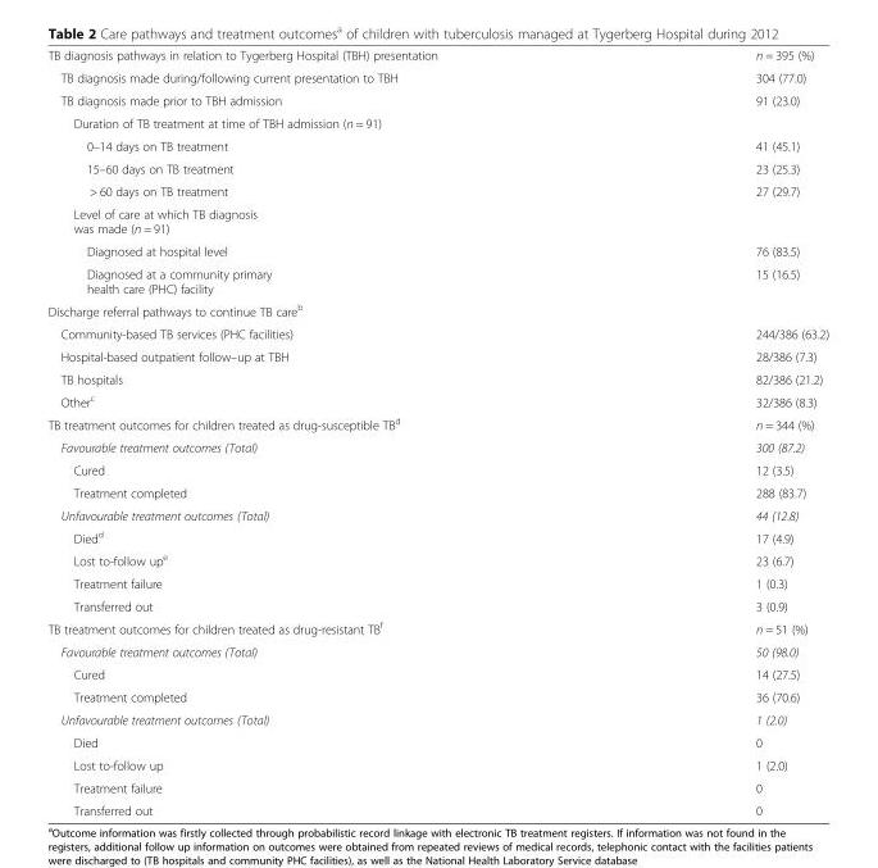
<table><tbody><tr><td>TB diagnosis pathways in relation to Tygerberg Hospital (TBH) presentation</td><td>n = 395 (%)</td></tr><tr><td>TB diagnosis made during/following current presentation to TBH</td><td>304 (77.0)</td></tr><tr><td>TB diagnosis made prior to TBH admission</td><td>91 (23.0)</td></tr><tr><td colspan="2">Duration of TB treatment at time of TBH admission (n = 91)</td></tr><tr><td>0–14 days on TB treatment</td><td>41 (45.1)</td></tr><tr><td>15–60 days on TB treatment</td><td>23 (25.3)</td></tr><tr><td>&gt; 60 days on TB treatment</td><td>27 (29.7)</td></tr><tr><td colspan="2">Level of care at which TB diagnosis was made (n = 91)</td></tr><tr><td>Diagnosed at hospital level</td><td>76 (83.5)</td></tr><tr><td>Diagnosed at a community primary health care (PHC) facility</td><td>15 (16.5)</td></tr><tr><td colspan="2">Discharge referral pathways to continue TB care<sup>b</sup></td></tr><tr><td>Community-based TB services (PHC facilities)</td><td>244/386 (63.2)</td></tr><tr><td>Hospital-based outpatient follow–up at TBH</td><td>28/386 (7.3)</td></tr><tr><td>TB hospitals</td><td>82/386 (21.2)</td></tr><tr><td>Other<sup>c</sup></td><td>32/386 (8.3)</td></tr><tr><td>TB treatment outcomes for children treated as drug-susceptible TB<sup>d</sup></td><td>n = 344 (%)</td></tr><tr><td>Favourable treatment outcomes (Total)</td><td>300 (87.2)</td></tr><tr><td>Cured</td><td>12 (3.5)</td></tr><tr><td>Treatment completed</td><td>288 (83.7)</td></tr><tr><td>Unfavourable treatment outcomes (Total)</td><td>44 (12.8)</td></tr><tr><td>Died<sup>d</sup></td><td>17 (4.9)</td></tr><tr><td>Lost to-follow up<sup>e</sup></td><td>23 (6.7)</td></tr><tr><td>Treatment failure</td><td>1 (0.3)</td></tr><tr><td>Transferred out</td><td>3 (0.9)</td></tr><tr><td>TB treatment outcomes for children treated as drug-resistant TB<sup>f</sup></td><td>n = 51 (%)</td></tr><tr><td>Favourable treatment outcomes (Total)</td><td>50 (98.0)</td></tr><tr><td>Cured</td><td>14 (27.5)</td></tr><tr><td>Treatment completed</td><td>36 (70.6)</td></tr><tr><td>Unfavourable treatment outcomes (Total)</td><td>1 (2.0)</td></tr><tr><td>Died</td><td>0</td></tr><tr><td>Lost to-follow up</td><td>1 (2.0)</td></tr><tr><td>Treatment failure</td><td>0</td></tr><tr><td>Transferred out</td><td>0</td></tr></tbody></table>